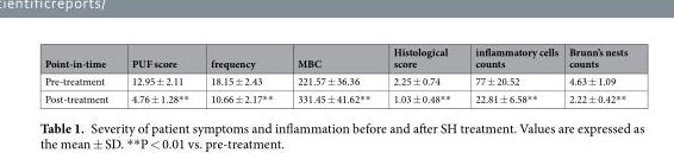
<table><thead><tr><td>Point-in-time</td><td>PUF score</td><td>frequency</td><td>MBC</td><td>Histological score</td><td>inflammatory cells counts</td><td>Brunn’s nests counts</td></tr></thead><tbody><tr><td>Pre-treatment</td><td>12.95 ± 2.11</td><td>18.15 ± 2.43</td><td>221.57 ± 36.36</td><td>2.25 ± 0.74</td><td>77 ± 20.52</td><td>4.63 ± 1.09</td></tr><tr><td>Post-treatment</td><td>4.76 ± 1.28**</td><td>10.66 ± 2.17**</td><td>331.45 ± 41.62**</td><td>1.03 ± 0.48**</td><td>22.81 ± 6.58**</td><td>2.22 ± 0.42**</td></tr></tbody></table>